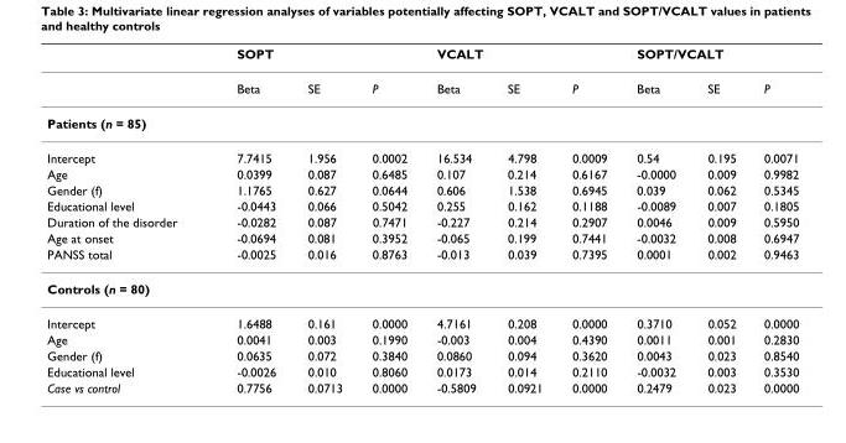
<table><thead><tr><td rowspan="2"></td><td colspan="3">SOPT</td><td colspan="3">VCALT</td><td colspan="3">SOPT/VCALT</td></tr><tr><td>Beta</td><td>SE</td><td>P</td><td>Beta</td><td>SE</td><td>P</td><td>Beta</td><td>SE</td><td>P</td></tr></thead><tbody><tr><td colspan="10">Patients (n = 85)</td></tr><tr><td>Intercept</td><td>7.7415</td><td>1.956</td><td>0.0002</td><td>16.534</td><td>4.798</td><td>0.0009</td><td>0.54</td><td>0.195</td><td>0.0071</td></tr><tr><td>Age</td><td>0.0399</td><td>0.087</td><td>0.6485</td><td>0.107</td><td>0.214</td><td>0.6167</td><td>-0.0000</td><td>0.009</td><td>0.9982</td></tr><tr><td>Gender (f)</td><td>1.1765</td><td>0.627</td><td>0.0644</td><td>0.606</td><td>1.538</td><td>0.6945</td><td>0.039</td><td>0.062</td><td>0.5345</td></tr><tr><td>Educational level</td><td>-0.0443</td><td>0.066</td><td>0.5042</td><td>0.255</td><td>0.162</td><td>0.1188</td><td>-0.0089</td><td>0.007</td><td>0.1805</td></tr><tr><td>Duration of the disorder</td><td>-0.0282</td><td>0.087</td><td>0.7471</td><td>-0.227</td><td>0.214</td><td>0.2907</td><td>0.0046</td><td>0.009</td><td>0.5950</td></tr><tr><td>Age at onset</td><td>-0.0694</td><td>0.081</td><td>0.3952</td><td>-0.065</td><td>0.199</td><td>0.7441</td><td>-0.0032</td><td>0.008</td><td>0.6947</td></tr><tr><td>PANSS total</td><td>-0.0025</td><td>0.016</td><td>0.8763</td><td>-0.013</td><td>0.039</td><td>0.7395</td><td>0.0001</td><td>0.002</td><td>0.9463</td></tr><tr><td colspan="10">Controls (n = 80)</td></tr><tr><td>Intercept</td><td>1.6488</td><td>0.161</td><td>0.0000</td><td>4.7161</td><td>0.208</td><td>0.0000</td><td>0.3710</td><td>0.052</td><td>0.0000</td></tr><tr><td>Age</td><td>0.0041</td><td>0.003</td><td>0.1990</td><td>-0.003</td><td>0.004</td><td>0.4390</td><td>0.0011</td><td>0.001</td><td>0.2830</td></tr><tr><td>Gender (f)</td><td>0.0635</td><td>0.072</td><td>0.3840</td><td>0.0860</td><td>0.094</td><td>0.3620</td><td>0.0043</td><td>0.023</td><td>0.8540</td></tr><tr><td>Educational level</td><td>-0.0026</td><td>0.010</td><td>0.8060</td><td>0.0173</td><td>0.014</td><td>0.2110</td><td>-0.0032</td><td>0.003</td><td>0.3530</td></tr><tr><td>Case vs control</td><td>0.7756</td><td>0.0713</td><td>0.0000</td><td>-0.5809</td><td>0.0921</td><td>0.0000</td><td>0.2479</td><td>0.023</td><td>0.0000</td></tr></tbody></table>